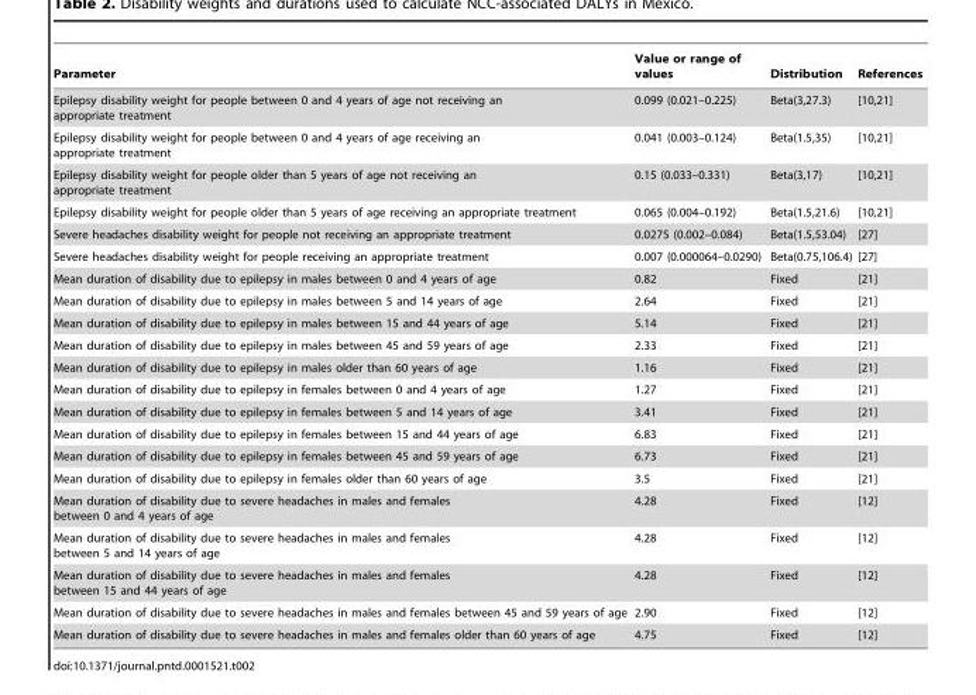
<table><thead><tr><td>Parameter</td><td>Value or range of values</td><td>Distribution</td><td>References</td></tr></thead><tbody><tr><td>Epilepsy disability weight for people between 0 and 4 years of age not receiving an appropriate treatment</td><td>0.099 (0.021–0.225)</td><td>Beta(3,27.3)</td><td>[10,21]</td></tr><tr><td>Epilepsy disability weight for people between 0 and 4 years of age receiving an appropriate treatment</td><td>0.041 (0.003–0.124)</td><td>Beta(1.5,35)</td><td>[10,21]</td></tr><tr><td>Epilepsy disability weight for people older than 5 years of age not receiving an appropriate treatment</td><td>0.15 (0.033–0.331)</td><td>Beta(3,17)</td><td>[10,21]</td></tr><tr><td>Epilepsy disability weight for people older than 5 years of age receiving an appropriate treatment</td><td>0.065 (0.004–0.192)</td><td>Beta(1.5,21.6)</td><td>[10,21]</td></tr><tr><td>Severe headaches disability weight for people not receiving an appropriate treatment</td><td>0.0275 (0.002–0.084)</td><td>Beta(1.5,53.04)</td><td>[27]</td></tr><tr><td>Severe headaches disability weight for people receiving an appropriate treatment</td><td>0.007 (0.000064–0.0290)</td><td>Beta(0.75,106.4)</td><td>[27]</td></tr><tr><td>Mean duration of disability due to epilepsy in males between 0 and 4 years of age</td><td>0.82</td><td>Fixed</td><td>[21]</td></tr><tr><td>Mean duration of disability due to epilepsy in males between 5 and 14 years of age</td><td>2.64</td><td>Fixed</td><td>[21]</td></tr><tr><td>Mean duration of disability due to epilepsy in males between 15 and 44 years of age</td><td>5.14</td><td>Fixed</td><td>[21]</td></tr><tr><td>Mean duration of disability due to epilepsy in males between 45 and 59 years of age</td><td>2.33</td><td>Fixed</td><td>[21]</td></tr><tr><td>Mean duration of disability due to epilepsy in males older than 60 years of age</td><td>1.16</td><td>Fixed</td><td>[21]</td></tr><tr><td>Mean duration of disability due to epilepsy in females between 0 and 4 years of age</td><td>1.27</td><td>Fixed</td><td>[21]</td></tr><tr><td>Mean duration of disability due to epilepsy in females between 5 and 14 years of age</td><td>3.41</td><td>Fixed</td><td>[21]</td></tr><tr><td>Mean duration of disability due to epilepsy in females between 15 and 44 years of age</td><td>6.83</td><td>Fixed</td><td>[21]</td></tr><tr><td>Mean duration of disability due to epilepsy in females between 45 and 59 years of age</td><td>6.73</td><td>Fixed</td><td>[21]</td></tr><tr><td>Mean duration of disability due to epilepsy in females older than 60 years of age</td><td>3.5</td><td>Fixed</td><td>[21]</td></tr><tr><td>Mean duration of disability due to severe headaches in males and females between 0 and 4 years of age</td><td>4.28</td><td>Fixed</td><td>[12]</td></tr><tr><td>Mean duration of disability due to severe headaches in males and females between 5 and 14 years of age</td><td>4.28</td><td>Fixed</td><td>[12]</td></tr><tr><td>Mean duration of disability due to severe headaches in males and females between 15 and 44 years of age</td><td>4.28</td><td>Fixed</td><td>[12]</td></tr><tr><td>Mean duration of disability due to severe headaches in males and females between 45 and 59 years of age</td><td>2.90</td><td>Fixed</td><td>[12]</td></tr><tr><td>Mean duration of disability due to severe headaches in males and females older than 60 years of age</td><td>4.75</td><td>Fixed</td><td>[12]</td></tr></tbody></table>